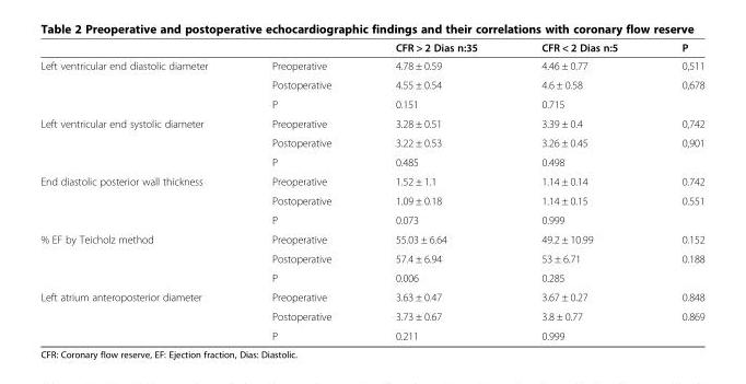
<table><thead><tr><td></td><td></td><td>CFR &gt; 2 Dias n:35</td><td>CFR &lt; 2 Dias n:5</td><td>P</td></tr></thead><tbody><tr><td rowspan="3">Left ventricular end diastolic diameter</td><td>Preoperative</td><td>4.78 ± 0.59</td><td>4.46 ± 0.77</td><td>0,511</td></tr><tr><td>Postoperative</td><td>4.55 ± 0.54</td><td>4.6 ± 0.58</td><td>0,678</td></tr><tr><td>P</td><td>0.151</td><td>0.715</td><td></td></tr><tr><td rowspan="3">Left ventricular end systolic diameter</td><td>Preoperative</td><td>3.28 ± 0.51</td><td>3.39 ± 0.4</td><td>0,742</td></tr><tr><td>Postoperative</td><td>3.22 ± 0.53</td><td>3.26 ± 0.45</td><td>0,901</td></tr><tr><td>P</td><td>0.485</td><td>0.498</td><td></td></tr><tr><td rowspan="3">End diastolic posterior wall thickness</td><td>Preoperative</td><td>1.52 ± 1.1</td><td>1.14 ± 0.14</td><td>0.742</td></tr><tr><td>Postoperative</td><td>1.09 ± 0.18</td><td>1.14 ± 0.15</td><td>0.551</td></tr><tr><td>P</td><td>0.073</td><td>0.999</td><td></td></tr><tr><td rowspan="3">% EF by Teicholz method</td><td>Preoperative</td><td>55.03 ± 6.64</td><td>49.2 ± 10.99</td><td>0.152</td></tr><tr><td>Postoperative</td><td>57.4 ± 6.94</td><td>53 ± 6.71</td><td>0.188</td></tr><tr><td>P</td><td>0.006</td><td>0.285</td><td></td></tr><tr><td rowspan="3">Left atrium anteroposterior diameter</td><td>Preoperative</td><td>3.63 ± 0.47</td><td>3.67 ± 0.27</td><td>0.848</td></tr><tr><td>Postoperative</td><td>3.73 ± 0.67</td><td>3.8 ± 0.77</td><td>0.869</td></tr><tr><td>P</td><td>0.211</td><td>0.999</td><td></td></tr></tbody></table>